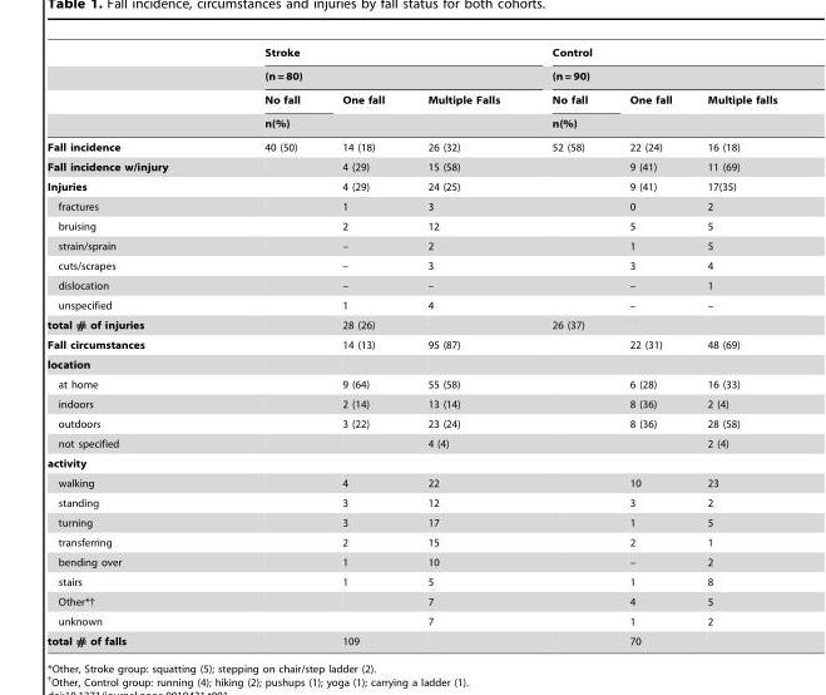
<table><thead><tr><td rowspan="4"></td><td rowspan="2" colspan="3">Stroke (n = 80)</td><td rowspan="2" colspan="3">Control (n = 90)</td></tr><tr></tr><tr><td>No fall</td><td>One fall</td><td>Multiple Falls</td><td>No fall</td><td>One fall</td><td>Multiple falls</td></tr><tr><td colspan="3">n(%)</td><td colspan="3">n(%)</td></tr></thead><tbody><tr><td>Fall incidence</td><td>40 (50)</td><td>14 (18)</td><td>26 (32)</td><td>52 (58)</td><td>22 (24)</td><td>16 (18)</td></tr><tr><td>Fall incidence w/injury</td><td></td><td>4 (29)</td><td>15 (58)</td><td></td><td>9 (41)</td><td>11 (69)</td></tr><tr><td>Injuries</td><td></td><td>4 (29)</td><td>24 (25)</td><td></td><td>9 (41)</td><td>17(35)</td></tr><tr><td>fractures</td><td></td><td>1</td><td>3</td><td></td><td>0</td><td>2</td></tr><tr><td>bruising</td><td></td><td>2</td><td>12</td><td></td><td>5</td><td>5</td></tr><tr><td>strain/sprain</td><td></td><td>–</td><td>2</td><td></td><td>1</td><td>5</td></tr><tr><td>cuts/scrapes</td><td></td><td>–</td><td>3</td><td></td><td>3</td><td>4</td></tr><tr><td>dislocation</td><td></td><td>–</td><td>–</td><td></td><td>–</td><td>1</td></tr><tr><td>unspecified</td><td></td><td>1</td><td>4</td><td></td><td>–</td><td>–</td></tr><tr><td>total # of injuries</td><td></td><td>28 (26)</td><td></td><td>26 (37)</td><td></td><td></td></tr><tr><td>Fall circumstances</td><td></td><td>14 (13)</td><td>95 (87)</td><td></td><td>22 (31)</td><td>48 (69)</td></tr><tr><td colspan="7">location</td></tr><tr><td>at home</td><td></td><td>9 (64)</td><td>55 (58)</td><td></td><td>6 (28)</td><td>16 (33)</td></tr><tr><td>indoors</td><td></td><td>2 (14)</td><td>13 (14)</td><td></td><td>8 (36)</td><td>2 (4)</td></tr><tr><td>outdoors</td><td></td><td>3 (22)</td><td>23 (24)</td><td></td><td>8 (36)</td><td>28 (58)</td></tr><tr><td>not specified</td><td></td><td></td><td>4 (4)</td><td></td><td></td><td>2 (4)</td></tr><tr><td colspan="7">activity</td></tr><tr><td>walking</td><td></td><td>4</td><td>22</td><td></td><td>10</td><td>23</td></tr><tr><td>standing</td><td></td><td>3</td><td>12</td><td></td><td>3</td><td>2</td></tr><tr><td>turning</td><td></td><td>3</td><td>17</td><td></td><td>1</td><td>5</td></tr><tr><td>transferring</td><td></td><td>2</td><td>15</td><td></td><td>2</td><td>1</td></tr><tr><td>bending over</td><td></td><td>1</td><td>10</td><td></td><td>–</td><td>2</td></tr><tr><td>stairs</td><td></td><td>1</td><td>5</td><td></td><td>1</td><td>8</td></tr><tr><td>Other*†</td><td></td><td></td><td>7</td><td></td><td>4</td><td>5</td></tr><tr><td>unknown</td><td></td><td></td><td>7</td><td></td><td>1</td><td>2</td></tr><tr><td>total # of falls</td><td></td><td>109</td><td></td><td></td><td>70</td><td></td></tr></tbody></table>